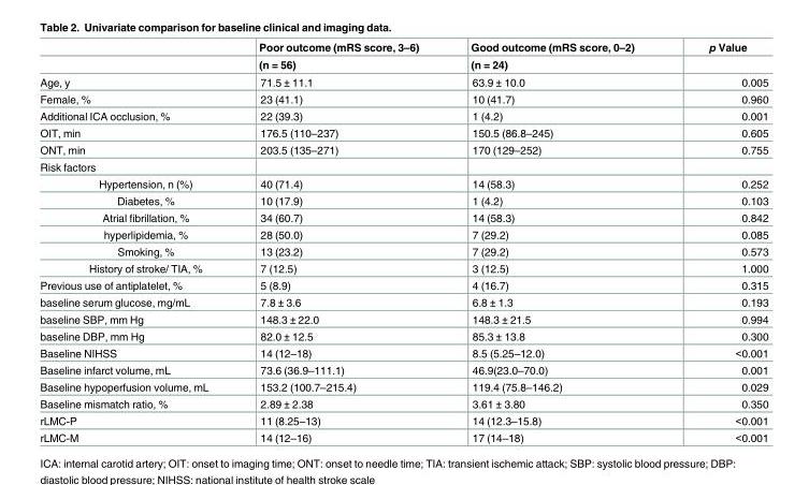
<table><thead><tr><td rowspan="2"></td><td rowspan="2">Poor outcome (mRS score, 3–6) (n = 56)</td><td rowspan="2">Good outcome (mRS score, 0–2) (n = 24)</td><td rowspan="2">p Value</td></tr><tr></tr></thead><tbody><tr><td>Age, y</td><td>71.5 ± 11.1</td><td>63.9 ± 10.0</td><td>0.005</td></tr><tr><td>Female, %</td><td>23 (41.1)</td><td>10 (41.7)</td><td>0.960</td></tr><tr><td>Additional ICA occlusion, %</td><td>22 (39.3)</td><td>1 (4.2)</td><td>0.001</td></tr><tr><td>OIT, min</td><td>176.5 (110–237)</td><td>150.5 (86.8–245)</td><td>0.605</td></tr><tr><td>ONT, min</td><td>203.5 (135–271)</td><td>170 (129–252)</td><td>0.755</td></tr><tr><td colspan="4">Risk factors</td></tr><tr><td>Hypertension, n (%)</td><td>40 (71.4)</td><td>14 (58.3)</td><td>0.252</td></tr><tr><td>Diabetes, %</td><td>10 (17.9)</td><td>1 (4.2)</td><td>0.103</td></tr><tr><td>Atrial fibrillation, %</td><td>34 (60.7)</td><td>14 (58.3)</td><td>0.842</td></tr><tr><td>hyperlipidemia, %</td><td>28 (50.0)</td><td>7 (29.2)</td><td>0.085</td></tr><tr><td>Smoking, %</td><td>13 (23.2)</td><td>7 (29.2)</td><td>0.573</td></tr><tr><td>History of stroke/ TIA, %</td><td>7 (12.5)</td><td>3 (12.5)</td><td>1.000</td></tr><tr><td>Previous use of antiplatelet, %</td><td>5 (8.9)</td><td>4 (16.7)</td><td>0.315</td></tr><tr><td>baseline serum glucose, mg/mL</td><td>7.8 ± 3.6</td><td>6.8 ± 1.3</td><td>0.193</td></tr><tr><td>baseline SBP, mm Hg</td><td>148.3 ± 22.0</td><td>148.3 ± 21.5</td><td>0.994</td></tr><tr><td>baseline DBP, mm Hg</td><td>82.0 ± 12.5</td><td>85.3 ± 13.8</td><td>0.300</td></tr><tr><td>Baseline NIHSS</td><td>14 (12–18)</td><td>8.5 (5.25–12.0)</td><td>&lt;0.001</td></tr><tr><td>Baseline infarct volume, mL</td><td>73.6 (36.9–111.1)</td><td>46.9(23.0–70.0)</td><td>0.001</td></tr><tr><td>Baseline hypoperfusion volume, mL</td><td>153.2 (100.7–215.4)</td><td>119.4 (75.8–146.2)</td><td>0.029</td></tr><tr><td>Baseline mismatch ratio, %</td><td>2.89 ± 2.38</td><td>3.61 ± 3.80</td><td>0.350</td></tr><tr><td>rLMC-P</td><td>11 (8.25–13)</td><td>14 (12.3–15.8)</td><td>&lt;0.001</td></tr><tr><td>rLMC-M</td><td>14 (12–16)</td><td>17 (14–18)</td><td>&lt;0.001</td></tr></tbody></table>